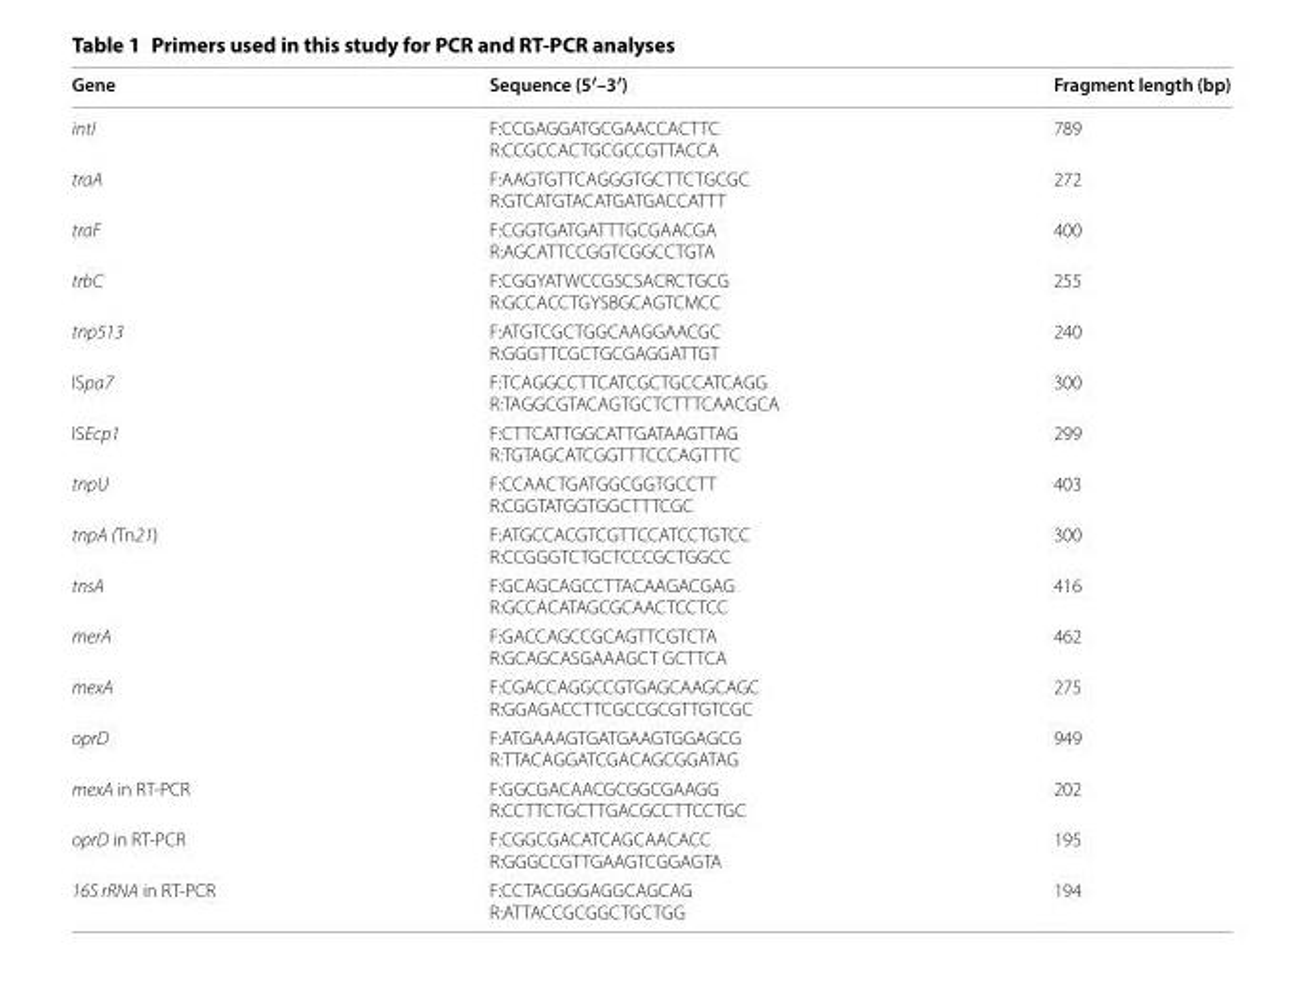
<table><thead><tr><td>Gene</td><td>Sequence (5′–3′)</td><td>Fragment length (bp)</td></tr></thead><tbody><tr><td>intI</td><td>F:CCGAGGATGCGAACCACTTC R:CCGCCACTGCGCCGTTACCA</td><td>789</td></tr><tr><td>traA</td><td>F:AAGTGTTCAGGGTGCTTCTGCGC R:GTCATGTACATGATGACCATTT</td><td>272</td></tr><tr><td>traF</td><td>F:CGGTGATGATTTGCGAACGA R:AGCATTCCGGTCGGCCTGTA</td><td>400</td></tr><tr><td>trbC</td><td>F:CGGYATWCCGSCSACRCTGCG R:GCCACCTGYSBGCAGTCMCC</td><td>255</td></tr><tr><td>tnp513</td><td>F:ATGTCGCTGGCAAGGAACGC R:GGGTTCGCTGCGAGGATTGT</td><td>240</td></tr><tr><td>ISpa7</td><td>F:TCAGGCCTTCATCGCTGCCATCAGG R:TAGGCGTACAGTGCTCTTTCAACGCA</td><td>300</td></tr><tr><td>ISEcp1</td><td>F:CTTCATTGGCATTGATAAGTTAG R:TGTAGCATCGGTTTCCCAGTTTC</td><td>299</td></tr><tr><td>tnpU</td><td>F:CCAACTGATGGCGGTGCCTT R:CGGTATGGTGGCTTTCGC</td><td>403</td></tr><tr><td>tnpA (Tn21)</td><td>F:ATGCCACGTCGTTCCATCCTGTCC R:CCGGGTCTGCTCCCGCTGGCC</td><td>300</td></tr><tr><td>tnsA</td><td>F:GCAGCAGCCTTACAAGACGAG R:GCCACATAGCGCAACTCCTCC</td><td>416</td></tr><tr><td>merA</td><td>F:GACCAGCCGCAGTTCGTCTA R:GCAGCASGAAAGCT GCTTCA</td><td>462</td></tr><tr><td>mexA</td><td>F:CGACCAGGCCGTGAGCAAGCAGC R:GGAGACCTTCGCCGCGTTGTCGC</td><td>275</td></tr><tr><td>oprD</td><td>F:ATGAAAGTGATGAAGTGGAGCG R:TTACAGGATCGACAGCGGATAG</td><td>949</td></tr><tr><td>mexA in RT-PCR</td><td>F:GGCGACAACGCGGCGAAGG R:CCTTCTGCTTGACGCCTTCCTGC</td><td>202</td></tr><tr><td>oprD in RT-PCR</td><td>F:CGGCGACATCAGCAACACC R:GGGCCGTTGAAGTCGGAGTA</td><td>195</td></tr><tr><td>16S rRNA in RT-PCR</td><td>F:CCTACGGGAGGCAGCAG R:ATTACCGCGGCTGCTGG</td><td>194</td></tr></tbody></table>